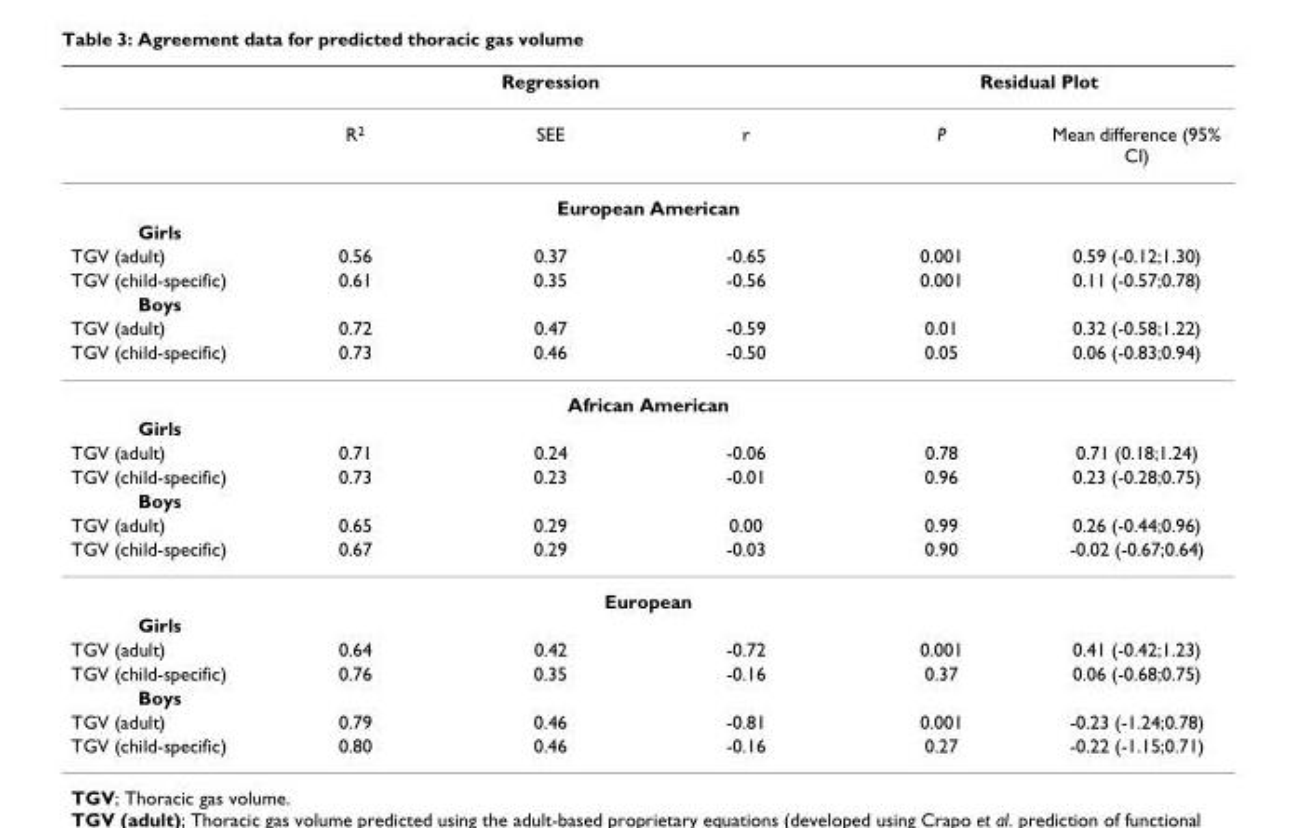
<table><thead><tr><td rowspan="2"></td><td colspan="3">Regression</td><td colspan="2">Residual Plot</td></tr><tr><td>R<sup>2</sup></td><td>SEE</td><td>r</td><td>P</td><td>Mean difference (95% CI)</td></tr></thead><tbody><tr><td colspan="6">European American</td></tr><tr><td colspan="6">Girls</td></tr><tr><td>TGV (adult)</td><td>0.56</td><td>0.37</td><td>-0.65</td><td>0.001</td><td>0.59 (-0.12;1.30)</td></tr><tr><td>TGV (child-specific)</td><td>0.61</td><td>0.35</td><td>-0.56</td><td>0.001</td><td>0.11 (-0.57;0.78)</td></tr><tr><td colspan="6">Boys</td></tr><tr><td>TGV (adult)</td><td>0.72</td><td>0.47</td><td>-0.59</td><td>0.01</td><td>0.32 (-0.58;1.22)</td></tr><tr><td>TGV (child-specific)</td><td>0.73</td><td>0.46</td><td>-0.50</td><td>0.05</td><td>0.06 (-0.83;0.94)</td></tr><tr><td colspan="6">African American</td></tr><tr><td colspan="6">Girls</td></tr><tr><td>TGV (adult)</td><td>0.71</td><td>0.24</td><td>-0.06</td><td>0.78</td><td>0.71 (0.18;1.24)</td></tr><tr><td>TGV (child-specific)</td><td>0.73</td><td>0.23</td><td>-0.01</td><td>0.96</td><td>0.23 (-0.28;0.75)</td></tr><tr><td colspan="6">Boys</td></tr><tr><td>TGV (adult)</td><td>0.65</td><td>0.29</td><td>0.00</td><td>0.99</td><td>0.26 (-0.44;0.96)</td></tr><tr><td>TGV (child-specific)</td><td>0.67</td><td>0.29</td><td>-0.03</td><td>0.90</td><td>-0.02 (-0.67;0.64)</td></tr><tr><td colspan="6">European</td></tr><tr><td colspan="6">Girls</td></tr><tr><td>TGV (adult)</td><td>0.64</td><td>0.42</td><td>-0.72</td><td>0.001</td><td>0.41 (-0.42;1.23)</td></tr><tr><td>TGV (child-specific)</td><td>0.76</td><td>0.35</td><td>-0.16</td><td>0.37</td><td>0.06 (-0.68;0.75)</td></tr><tr><td colspan="6">Boys</td></tr><tr><td>TGV (adult)</td><td>0.79</td><td>0.46</td><td>-0.81</td><td>0.001</td><td>-0.23 (-1.24;0.78)</td></tr><tr><td>TGV (child-specific)</td><td>0.80</td><td>0.46</td><td>-0.16</td><td>0.27</td><td>-0.22 (-1.15;0.71)</td></tr></tbody></table>